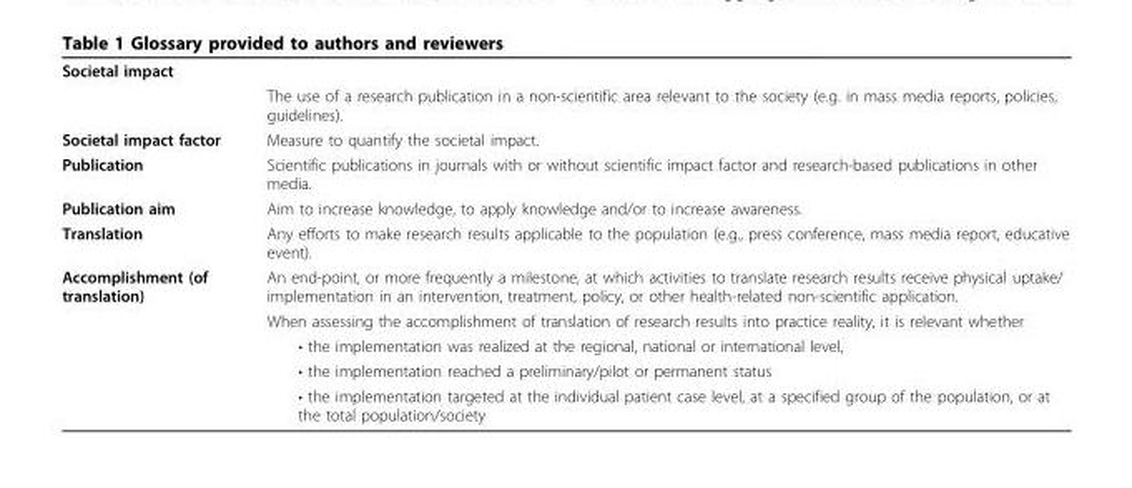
<table><tbody><tr><td colspan="2">Societal impact</td></tr><tr><td></td><td>The use of a research publication in a non-scientific area relevant to the society (e.g. in mass media reports, policies, guidelines).</td></tr><tr><td>Societal impact factor</td><td>Measure to quantify the societal impact.</td></tr><tr><td>Publication</td><td>Scientific publications in journals with or without scientific impact factor and research-based publications in other media.</td></tr><tr><td>Publication aim</td><td>Aim to increase knowledge, to apply knowledge and/or to increase awareness.</td></tr><tr><td>Translation</td><td>Any efforts to make research results applicable to the population (e.g., press conference, mass media report, educative event).</td></tr><tr><td rowspan="5">Accomplishment (of translation)</td><td>An end-point, or more frequently a milestone, at which activities to translate research results receive physical uptake/ implementation in an intervention, treatment, policy, or other health-related non-scientific application.</td></tr><tr><td>When assessing the accomplishment of translation of research results into practice reality, it is relevant whether</td></tr><tr><td>• the implementation was realized at the regional, national or international level,</td></tr><tr><td>• the implementation reached a preliminary/pilot or permanent status</td></tr><tr><td>• the implementation targeted at the individual patient case level, at a specified group of the population, or at the total population/society</td></tr></tbody></table>